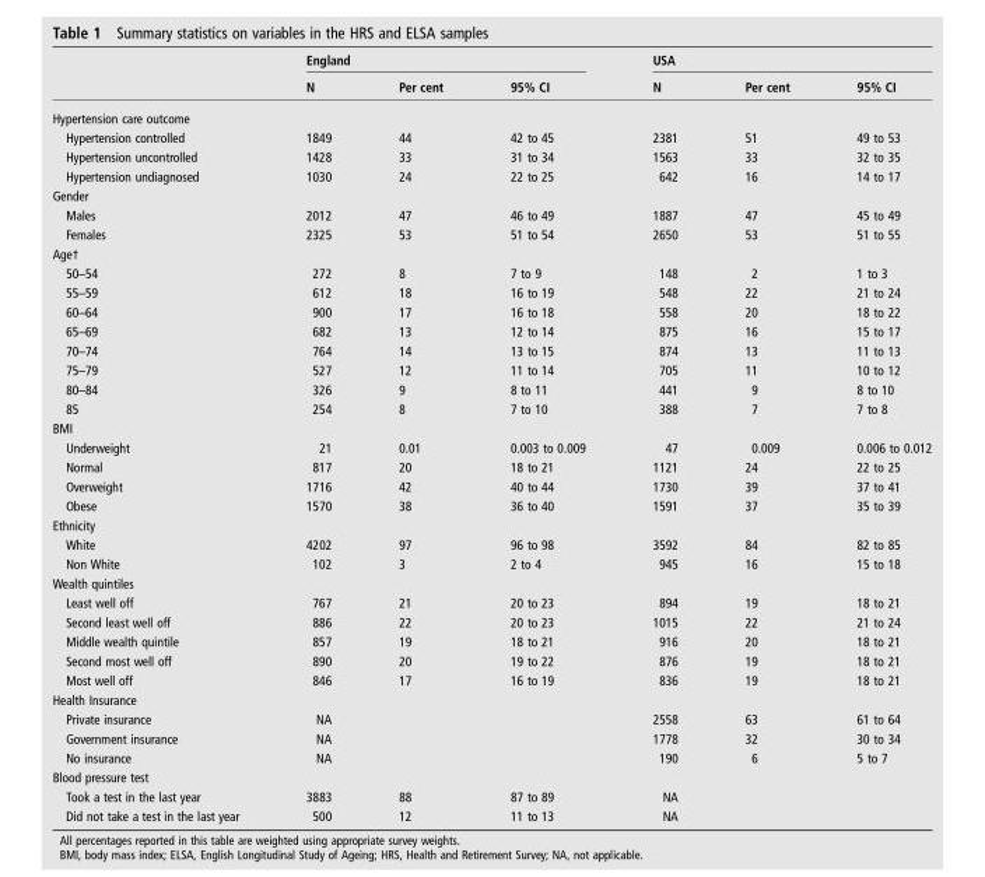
<table><thead><tr><td rowspan="2"></td><td colspan="3">England</td><td colspan="3">USA</td></tr><tr><td>N</td><td>Per cent</td><td>95% CI</td><td>N</td><td>Per cent</td><td>95% CI</td></tr></thead><tbody><tr><td colspan="7">Hypertension care outcome</td></tr><tr><td>Hypertension controlled</td><td>1849</td><td>44</td><td>42 to 45</td><td>2381</td><td>51</td><td>49 to 53</td></tr><tr><td>Hypertension uncontrolled</td><td>1428</td><td>33</td><td>31 to 34</td><td>1563</td><td>33</td><td>32 to 35</td></tr><tr><td>Hypertension undiagnosed</td><td>1030</td><td>24</td><td>22 to 25</td><td>642</td><td>16</td><td>14 to 17</td></tr><tr><td colspan="7">Gender</td></tr><tr><td>Males</td><td>2012</td><td>47</td><td>46 to 49</td><td>1887</td><td>47</td><td>45 to 49</td></tr><tr><td>Females</td><td>2325</td><td>53</td><td>51 to 54</td><td>2650</td><td>53</td><td>51 to 55</td></tr><tr><td colspan="7">Age†</td></tr><tr><td>50–54</td><td>272</td><td>8</td><td>7 to 9</td><td>148</td><td>2</td><td>1 to 3</td></tr><tr><td>55–59</td><td>612</td><td>18</td><td>16 to 19</td><td>548</td><td>22</td><td>21 to 24</td></tr><tr><td>60–64</td><td>900</td><td>17</td><td>16 to 18</td><td>558</td><td>20</td><td>18 to 22</td></tr><tr><td>65–69</td><td>682</td><td>13</td><td>12 to 14</td><td>875</td><td>16</td><td>15 to 17</td></tr><tr><td>70–74</td><td>764</td><td>14</td><td>13 to 15</td><td>874</td><td>13</td><td>11 to 13</td></tr><tr><td>75–79</td><td>527</td><td>12</td><td>11 to 14</td><td>705</td><td>11</td><td>10 to 12</td></tr><tr><td>80–84</td><td>326</td><td>9</td><td>8 to 11</td><td>441</td><td>9</td><td>8 to 10</td></tr><tr><td>85</td><td>254</td><td>8</td><td>7 to 10</td><td>388</td><td>7</td><td>7 to 8</td></tr><tr><td colspan="7">BMI</td></tr><tr><td>Underweight</td><td>21</td><td>0.01</td><td>0.003 to 0.009</td><td>47</td><td>0.009</td><td>0.006 to 0.012</td></tr><tr><td>Normal</td><td>817</td><td>20</td><td>18 to 21</td><td>1121</td><td>24</td><td>22 to 25</td></tr><tr><td>Overweight</td><td>1716</td><td>42</td><td>40 to 44</td><td>1730</td><td>39</td><td>37 to 41</td></tr><tr><td>Obese</td><td>1570</td><td>38</td><td>36 to 40</td><td>1591</td><td>37</td><td>35 to 39</td></tr><tr><td colspan="7">Ethnicity</td></tr><tr><td>White</td><td>4202</td><td>97</td><td>96 to 98</td><td>3592</td><td>84</td><td>82 to 85</td></tr><tr><td>Non White</td><td>102</td><td>3</td><td>2 to 4</td><td>945</td><td>16</td><td>15 to 18</td></tr><tr><td colspan="7">Wealth quintiles</td></tr><tr><td>Least well off</td><td>767</td><td>21</td><td>20 to 23</td><td>894</td><td>19</td><td>18 to 21</td></tr><tr><td>Second least well off</td><td>886</td><td>22</td><td>20 to 23</td><td>1015</td><td>22</td><td>21 to 24</td></tr><tr><td>Middle wealth quintile</td><td>857</td><td>19</td><td>18 to 21</td><td>916</td><td>20</td><td>18 to 21</td></tr><tr><td>Second most well off</td><td>890</td><td>20</td><td>19 to 22</td><td>876</td><td>19</td><td>18 to 21</td></tr><tr><td>Most well off</td><td>846</td><td>17</td><td>16 to 19</td><td>836</td><td>19</td><td>18 to 21</td></tr><tr><td colspan="7">Health Insurance</td></tr><tr><td>Private insurance</td><td>NA</td><td></td><td></td><td>2558</td><td>63</td><td>61 to 64</td></tr><tr><td>Government insurance</td><td>NA</td><td></td><td></td><td>1778</td><td>32</td><td>30 to 34</td></tr><tr><td>No insurance</td><td>NA</td><td></td><td></td><td>190</td><td>6</td><td>5 to 7</td></tr><tr><td colspan="7">Blood pressure test</td></tr><tr><td>Took a test in the last year</td><td>3883</td><td>88</td><td>87 to 89</td><td>NA</td><td></td><td></td></tr><tr><td>Did not take a test in the last year</td><td>500</td><td>12</td><td>11 to 13</td><td>NA</td><td></td><td></td></tr></tbody></table>